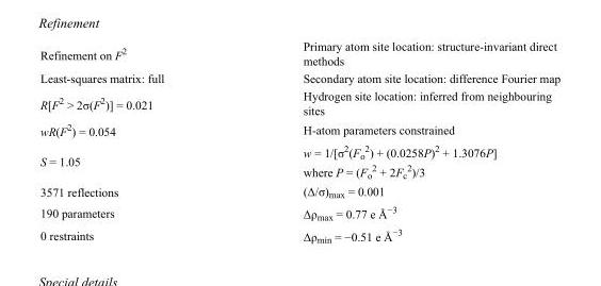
<table><tbody><tr><td>Refinement on F<sup>2</sup></td><td>Primary atom site location: structure-invariant direct methods</td></tr><tr><td>Least-squares matrix: full</td><td>Secondary atom site location: difference Fourier map</td></tr><tr><td>R[F<sup>2</sup> &gt; 2σ(F<sup>2</sup>)] = 0.021</td><td>Hydrogen site location: inferred from neighbouring sites</td></tr><tr><td>wR(F<sup>2</sup>) = 0.054</td><td>H-atom parameters constrained</td></tr><tr><td>S = 1.05</td><td>w = 1/[σ<sup>2</sup>(F<sub>o</sub> <sup>2</sup>) + (0.0258P)<sup>2</sup> + 1.3076P] where P = (F<sub>o</sub> <sup>2</sup> + 2F<sub>c</sub> <sup>2</sup>)/3</td></tr><tr><td>3571 reflections</td><td>(Δ/σ)<sub>max</sub> = 0.001</td></tr><tr><td>190 parameters</td><td>Δρ<sub>max</sub> = 0.77 e Å<sup>−3</sup></td></tr><tr><td>0 restraints</td><td>Δρ<sub>min</sub> = −0.51 e Å<sup>−3</sup></td></tr></tbody></table>